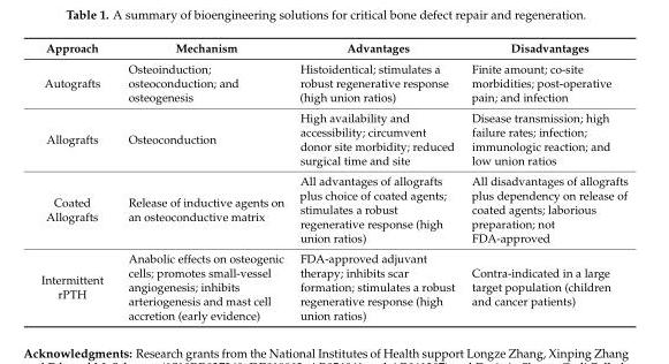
<table><thead><tr><td>Approach</td><td>Mechanism</td><td>Advantages</td><td>Disadvantages</td></tr></thead><tbody><tr><td>Autografts</td><td>Osteoinduction; osteoconduction; and osteogenesis</td><td>Histoidentical; stimulates a robust regenerative response (high union ratios)</td><td>Finite amount; co-site morbidities; post-operative pain; and infection</td></tr><tr><td>Allografts</td><td>Osteoconduction</td><td>High availability and accessibility; circumvent donor site morbidity; reduced surgical time and site</td><td>Disease transmission; high failure rates; infection; immunologic reaction; and low union ratios</td></tr><tr><td>Coated Allografts</td><td>Release of inductive agents on an osteoconductive matrix</td><td>All advantages of allografts plus choice of coated agents; stimulates a robust regenerative response (high union ratios)</td><td>All disadvantages of allografts plus dependency on release of coated agents; laborious preparation; not FDA-approved</td></tr><tr><td>Intermittent rPTH</td><td>Anabolic effects on osteogenic cells; promotes small-vessel angiogenesis; inhibits arteriogenesis and mast cell accretion (early evidence)</td><td>FDA-approved adjuvant therapy; inhibits scar formation; stimulates a robust regenerative response (high union ratios)</td><td>Contra-indicated in a large target population (children and cancer patients)</td></tr></tbody></table>